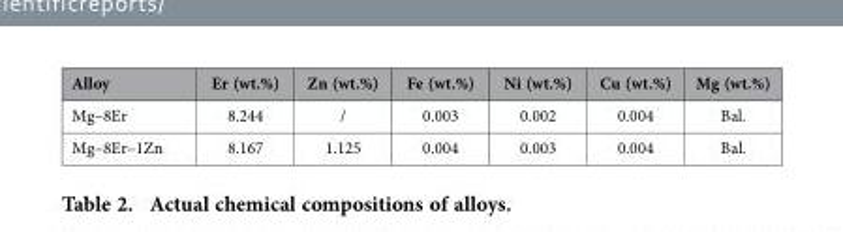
<table><thead><tr><td>Alloy</td><td>Er (wt.%)</td><td>Zn (wt.%)</td><td>Fe (wt.%)</td><td>Ni (wt.%)</td><td>Cu (wt.%)</td><td>Mg (wt.%)</td></tr></thead><tbody><tr><td>Mg–8Er</td><td>8.244</td><td>/</td><td>0.003</td><td>0.002</td><td>0.004</td><td>Bal.</td></tr><tr><td>Mg–8Er–1Zn</td><td>8.167</td><td>1.125</td><td>0.004</td><td>0.003</td><td>0.004</td><td>Bal.</td></tr></tbody></table>